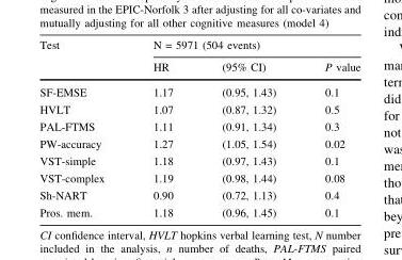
<table><thead><tr><td rowspan="2">Test</td><td colspan="3">N = 5971 (504 events)</td></tr><tr><td>HR</td><td>(95% CI)</td><td>P value</td></tr></thead><tbody><tr><td>SF-EMSE</td><td>1.17</td><td>(0.95, 1.43)</td><td>0.1</td></tr><tr><td>HVLT</td><td>1.07</td><td>(0.87, 1.32)</td><td>0.5</td></tr><tr><td>PAL-FTMS</td><td>1.11</td><td>(0.91, 1.34)</td><td>0.3</td></tr><tr><td>PW-accuracy</td><td>1.27</td><td>(1.05, 1.54)</td><td>0.02</td></tr><tr><td>VST-simple</td><td>1.18</td><td>(0.97, 1.43)</td><td>0.1</td></tr><tr><td>VST-complex</td><td>1.19</td><td>(0.98, 1.44)</td><td>0.08</td></tr><tr><td>Sh-NART</td><td>0.90</td><td>(0.72, 1.13)</td><td>0.4</td></tr><tr><td>Pros. mem.</td><td>1.18</td><td>(0.96, 1.45)</td><td>0.1</td></tr></tbody></table>